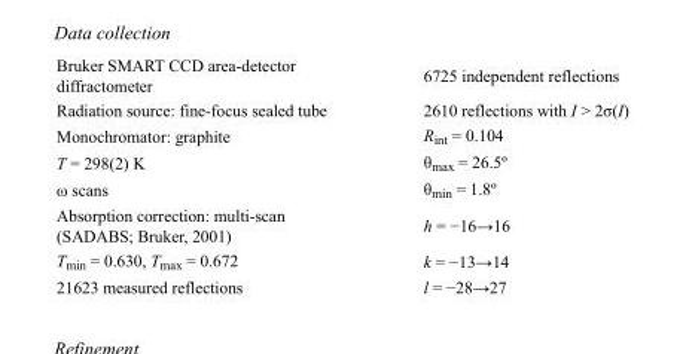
<table><tbody><tr><td>Bruker SMART CCD area-detector diffractometer</td><td>6725 independent reflections</td></tr><tr><td>Radiation source: fine-focus sealed tube</td><td>2610 reflections with I &gt; 2σ(I)</td></tr><tr><td>Monochromator: graphite</td><td>R<sub>int</sub> = 0.104</td></tr><tr><td>T = 298(2) K</td><td>θ<sub>max</sub> = 26.5º</td></tr><tr><td>ω scans</td><td>θ<sub>min</sub> = 1.8º</td></tr><tr><td>Absorption correction: multi-scan (SADABS; Bruker, 2001)</td><td>h = −16→16</td></tr><tr><td>T<sub>min</sub> = 0.630, T<sub>max</sub> = 0.672</td><td>k = −13→14</td></tr><tr><td>21623 measured reflections</td><td>l = −28→27</td></tr></tbody></table>